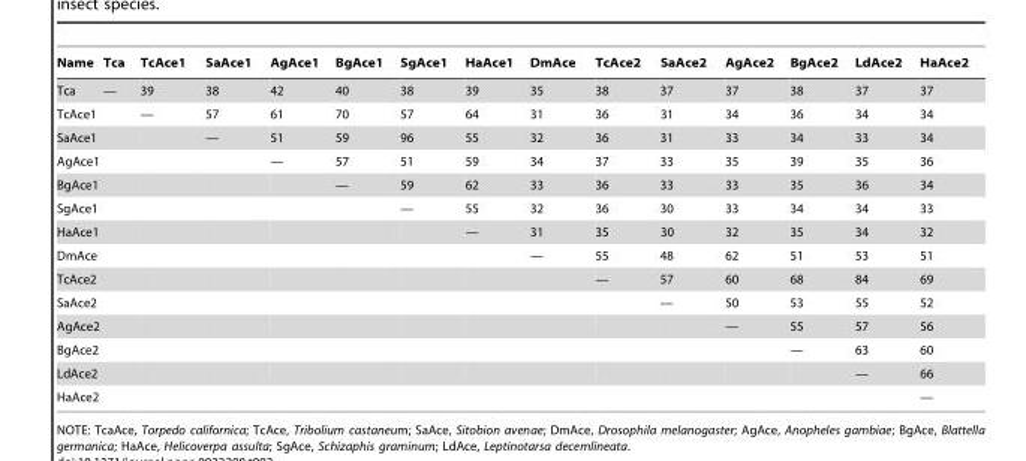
<table><thead><tr><td>Name</td><td>Tca</td><td>TcAce1</td><td>SaAce1</td><td>AgAce1</td><td>BgAce1</td><td>SgAce1</td><td>HaAce1</td><td>DmAce</td><td>TcAce2</td><td>SaAce2</td><td>AgAce2</td><td>BgAce2</td><td>LdAce2</td><td>HaAce2</td></tr></thead><tbody><tr><td>Tca</td><td>—</td><td>39</td><td>38</td><td>42</td><td>40</td><td>38</td><td>39</td><td>35</td><td>38</td><td>37</td><td>37</td><td>38</td><td>37</td><td>37</td></tr><tr><td>TcAce1</td><td></td><td>—</td><td>57</td><td>61</td><td>70</td><td>57</td><td>64</td><td>31</td><td>36</td><td>31</td><td>34</td><td>36</td><td>34</td><td>34</td></tr><tr><td>SaAce1</td><td></td><td></td><td>—</td><td>51</td><td>59</td><td>96</td><td>55</td><td>32</td><td>36</td><td>31</td><td>33</td><td>34</td><td>33</td><td>34</td></tr><tr><td>AgAce1</td><td></td><td></td><td></td><td>—</td><td>57</td><td>51</td><td>59</td><td>34</td><td>37</td><td>33</td><td>35</td><td>39</td><td>35</td><td>36</td></tr><tr><td>BgAce1</td><td></td><td></td><td></td><td></td><td>—</td><td>59</td><td>62</td><td>33</td><td>36</td><td>33</td><td>33</td><td>35</td><td>36</td><td>34</td></tr><tr><td>SgAce1</td><td></td><td></td><td></td><td></td><td></td><td>—</td><td>55</td><td>32</td><td>36</td><td>30</td><td>33</td><td>34</td><td>34</td><td>33</td></tr><tr><td>HaAce1</td><td></td><td></td><td></td><td></td><td></td><td></td><td>—</td><td>31</td><td>35</td><td>30</td><td>32</td><td>35</td><td>34</td><td>32</td></tr><tr><td>DmAce</td><td></td><td></td><td></td><td></td><td></td><td></td><td></td><td>—</td><td>55</td><td>48</td><td>62</td><td>51</td><td>53</td><td>51</td></tr><tr><td>TcAce2</td><td></td><td></td><td></td><td></td><td></td><td></td><td></td><td></td><td>—</td><td>57</td><td>60</td><td>68</td><td>84</td><td>69</td></tr><tr><td>SaAce2</td><td></td><td></td><td></td><td></td><td></td><td></td><td></td><td></td><td></td><td>—</td><td>50</td><td>53</td><td>55</td><td>52</td></tr><tr><td>AgAce2</td><td></td><td></td><td></td><td></td><td></td><td></td><td></td><td></td><td></td><td></td><td>—</td><td>55</td><td>57</td><td>56</td></tr><tr><td>BgAce2</td><td></td><td></td><td></td><td></td><td></td><td></td><td></td><td></td><td></td><td></td><td></td><td>—</td><td>63</td><td>60</td></tr><tr><td>LdAce2</td><td></td><td></td><td></td><td></td><td></td><td></td><td></td><td></td><td></td><td></td><td></td><td></td><td>—</td><td>66</td></tr><tr><td>HaAce2</td><td></td><td></td><td></td><td></td><td></td><td></td><td></td><td></td><td></td><td></td><td></td><td></td><td></td><td>—</td></tr></tbody></table>